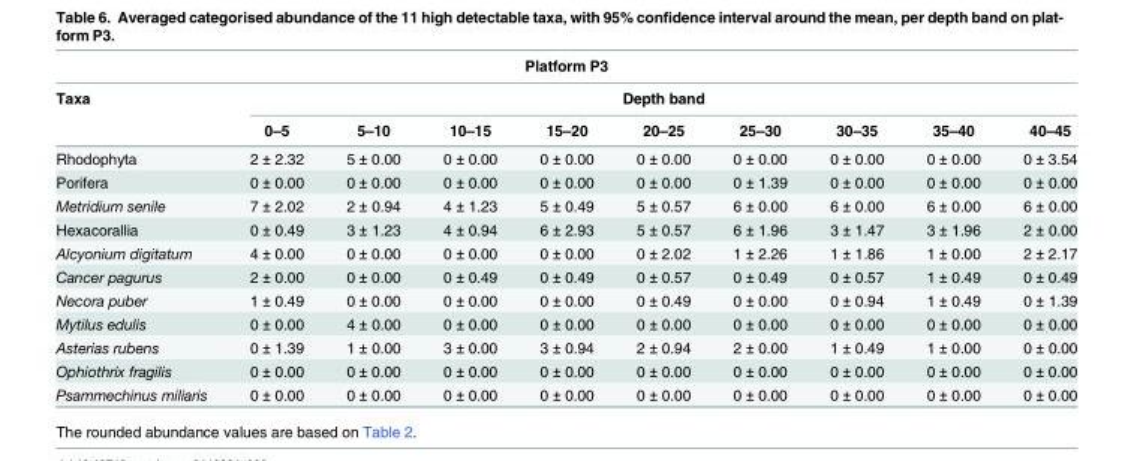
<table><thead><tr><td colspan="10">Platform P3</td></tr><tr><td rowspan="2">Taxa</td><td colspan="9">Depth band</td></tr><tr><td>0–5</td><td>5–10</td><td>10–15</td><td>15–20</td><td>20–25</td><td>25–30</td><td>30–35</td><td>35–40</td><td>40–45</td></tr></thead><tbody><tr><td>Rhodophyta</td><td>2 ± 2.32</td><td>5 ± 0.00</td><td>0 ± 0.00</td><td>0 ± 0.00</td><td>0 ± 0.00</td><td>0 ± 0.00</td><td>0 ± 0.00</td><td>0 ± 0.00</td><td>0 ± 3.54</td></tr><tr><td>Porifera</td><td>0 ± 0.00</td><td>0 ± 0.00</td><td>0 ± 0.00</td><td>0 ± 0.00</td><td>0 ± 0.00</td><td>0 ± 1.39</td><td>0 ± 0.00</td><td>0 ± 0.00</td><td>0 ± 0.00</td></tr><tr><td>Metridium senile</td><td>7 ± 2.02</td><td>2 ± 0.94</td><td>4 ± 1.23</td><td>5 ± 0.49</td><td>5 ± 0.57</td><td>6 ± 0.00</td><td>6 ± 0.00</td><td>6 ± 0.00</td><td>6 ± 0.00</td></tr><tr><td>Hexacorallia</td><td>0 ± 0.49</td><td>3 ± 1.23</td><td>4 ± 0.94</td><td>6 ± 2.93</td><td>5 ± 0.57</td><td>6 ± 1.96</td><td>3 ± 1.47</td><td>3 ± 1.96</td><td>2 ± 0.00</td></tr><tr><td>Alcyonium digitatum</td><td>4 ± 0.00</td><td>0 ± 0.00</td><td>0 ± 0.00</td><td>0 ± 0.00</td><td>0 ± 2.02</td><td>1 ± 2.26</td><td>1 ± 1.86</td><td>1 ± 0.00</td><td>2 ± 2.17</td></tr><tr><td>Cancer pagurus</td><td>2 ± 0.00</td><td>0 ± 0.00</td><td>0 ± 0.49</td><td>0 ± 0.49</td><td>0 ± 0.57</td><td>0 ± 0.49</td><td>0 ± 0.57</td><td>1 ± 0.49</td><td>0 ± 0.49</td></tr><tr><td>Necora puber</td><td>1 ± 0.49</td><td>0 ± 0.00</td><td>0 ± 0.00</td><td>0 ± 0.00</td><td>0 ± 0.49</td><td>0 ± 0.00</td><td>0 ± 0.94</td><td>1 ± 0.49</td><td>0 ± 1.39</td></tr><tr><td>Mytilus edulis</td><td>0 ± 0.00</td><td>4 ± 0.00</td><td>0 ± 0.00</td><td>0 ± 0.00</td><td>0 ± 0.00</td><td>0 ± 0.00</td><td>0 ± 0.00</td><td>0 ± 0.00</td><td>0 ± 0.00</td></tr><tr><td>Asterias rubens</td><td>0 ± 1.39</td><td>1 ± 0.00</td><td>3 ± 0.00</td><td>3 ± 0.94</td><td>2 ± 0.94</td><td>2 ± 0.00</td><td>1 ± 0.49</td><td>1 ± 0.00</td><td>0 ± 0.00</td></tr><tr><td>Ophiothrix fragilis</td><td>0 ± 0.00</td><td>0 ± 0.00</td><td>0 ± 0.00</td><td>0 ± 0.00</td><td>0 ± 0.00</td><td>0 ± 0.00</td><td>0 ± 0.00</td><td>0 ± 0.00</td><td>0 ± 0.00</td></tr><tr><td>Psammechinus miliaris</td><td>0 ± 0.00</td><td>0 ± 0.00</td><td>0 ± 0.00</td><td>0 ± 0.00</td><td>0 ± 0.00</td><td>0 ± 0.00</td><td>0 ± 0.00</td><td>0 ± 0.00</td><td>0 ± 0.00</td></tr></tbody></table>